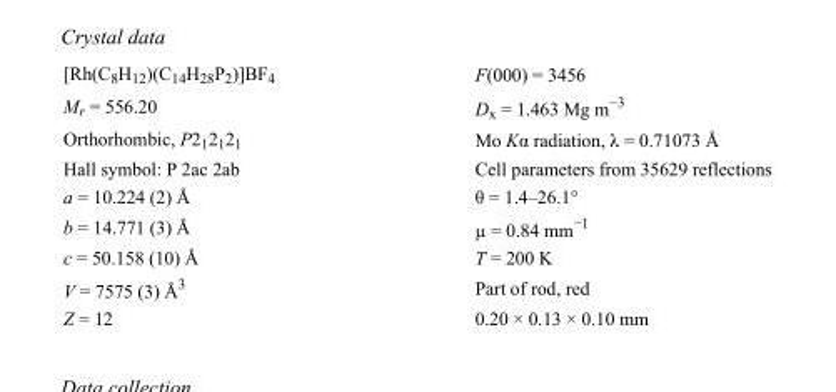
<table><tbody><tr><td>[Rh(C<sub>8</sub>H<sub>12</sub>)(C<sub>14</sub>H<sub>28</sub>P<sub>2</sub>)]BF<sub>4</sub></td><td>F(000) = 3456</td></tr><tr><td>M<sub>r</sub> = 556.20</td><td>D<sub>x</sub> = 1.463 Mg m<sup>−3</sup></td></tr><tr><td>Orthorhombic, P2<sub>1</sub>2<sub>1</sub>2<sub>1</sub></td><td>Mo Kα radiation, λ = 0.71073 Å</td></tr><tr><td>Hall symbol: P 2ac 2ab</td><td>Cell parameters from 35629 reflections</td></tr><tr><td>a = 10.224 (2) Å</td><td>θ = 1.4–26.1°</td></tr><tr><td>b = 14.771 (3) Å</td><td>µ = 0.84 mm<sup>−1</sup></td></tr><tr><td>c = 50.158 (10) Å</td><td>T = 200 K</td></tr><tr><td>V = 7575 (3) Å<sup>3</sup></td><td>Part of rod, red</td></tr><tr><td>Z = 12</td><td>0.20 × 0.13 × 0.10 mm</td></tr></tbody></table>